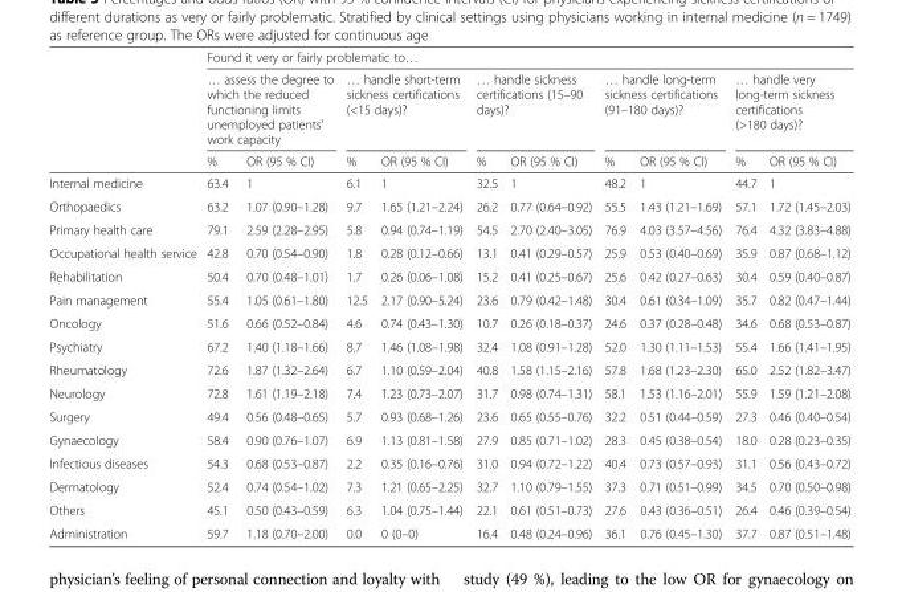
<table><thead><tr><td rowspan="3"></td><td colspan="10">Found it very or fairly problematic to…</td></tr><tr><td colspan="2">… assess the degree to which the reduced functioning limits unemployed patients’ work capacity</td><td colspan="2">… handle short-term sickness certifications (&lt;15 days)?</td><td colspan="2">… handle sickness certifications (15–90 days)?</td><td colspan="2">… handle long-term sickness certifications (91–180 days)?</td><td colspan="2">… handle very long-term sickness certifications (&gt;180 days)?</td></tr><tr><td>%</td><td>OR (95 % CI)</td><td>%</td><td>OR (95 % CI)</td><td>%</td><td>OR (95 % CI)</td><td>%</td><td>OR (95 % CI)</td><td>%</td><td>OR (95 % CI)</td></tr></thead><tbody><tr><td>Internal medicine</td><td>63.4</td><td>1</td><td>6.1</td><td>1</td><td>32.5</td><td>1</td><td>48.2</td><td>1</td><td>44.7</td><td>1</td></tr><tr><td>Orthopaedics</td><td>63.2</td><td>1.07 (0.90–1.28)</td><td>9.7</td><td>1.65 (1.21–2.24)</td><td>26.2</td><td>0.77 (0.64–0.92)</td><td>55.5</td><td>1.43 (1.21–1.69)</td><td>57.1</td><td>1.72 (1.45–2.03)</td></tr><tr><td>Primary health care</td><td>79.1</td><td>2.59 (2.28–2.95)</td><td>5.8</td><td>0.94 (0.74–1.19)</td><td>54.5</td><td>2.70 (2.40–3.05)</td><td>76.9</td><td>4.03 (3.57–4.56)</td><td>76.4</td><td>4.32 (3.83–4.88)</td></tr><tr><td>Occupational health service</td><td>42.8</td><td>0.70 (0.54–0.90)</td><td>1.8</td><td>0.28 (0.12–0.66)</td><td>13.1</td><td>0.41 (0.29–0.57)</td><td>25.9</td><td>0.53 (0.40–0.69)</td><td>35.9</td><td>0.87 (0.68–1.12)</td></tr><tr><td>Rehabilitation</td><td>50.4</td><td>0.70 (0.48–1.01)</td><td>1.7</td><td>0.26 (0.06–1.08)</td><td>15.2</td><td>0.41 (0.25–0.67)</td><td>25.6</td><td>0.42 (0.27–0.63)</td><td>30.4</td><td>0.59 (0.40–0.87)</td></tr><tr><td>Pain management</td><td>55.4</td><td>1.05 (0.61–1.80)</td><td>12.5</td><td>2.17 (0.90–5.24)</td><td>23.6</td><td>0.79 (0.42–1.48)</td><td>30.4</td><td>0.61 (0.34–1.09)</td><td>35.7</td><td>0.82 (0.47–1.44)</td></tr><tr><td>Oncology</td><td>51.6</td><td>0.66 (0.52–0.84)</td><td>4.6</td><td>0.74 (0.43–1.30)</td><td>10.7</td><td>0.26 (0.18–0.37)</td><td>24.6</td><td>0.37 (0.28–0.48)</td><td>34.6</td><td>0.68 (0.53–0.87)</td></tr><tr><td>Psychiatry</td><td>67.2</td><td>1.40 (1.18–1.66)</td><td>8.7</td><td>1.46 (1.08–1.98)</td><td>32.4</td><td>1.08 (0.91–1.28)</td><td>52.0</td><td>1.30 (1.11–1.53)</td><td>55.4</td><td>1.66 (1.41–1.95)</td></tr><tr><td>Rheumatology</td><td>72.6</td><td>1.87 (1.32–2.64)</td><td>6.7</td><td>1.10 (0.59–2.04)</td><td>40.8</td><td>1.58 (1.15–2.16)</td><td>57.8</td><td>1.68 (1.23–2.30)</td><td>65.0</td><td>2.52 (1.82–3.47)</td></tr><tr><td>Neurology</td><td>72.8</td><td>1.61 (1.19–2.18)</td><td>7.4</td><td>1.23 (0.73–2.07)</td><td>31.7</td><td>0.98 (0.74–1.31)</td><td>58.1</td><td>1.53 (1.16–2.01)</td><td>55.9</td><td>1.59 (1.21–2.08)</td></tr><tr><td>Surgery</td><td>49.4</td><td>0.56 (0.48–0.65)</td><td>5.7</td><td>0.93 (0.68–1.26)</td><td>23.6</td><td>0.65 (0.55–0.76)</td><td>32.2</td><td>0.51 (0.44–0.59)</td><td>27.3</td><td>0.46 (0.40–0.54)</td></tr><tr><td>Gynaecology</td><td>58.4</td><td>0.90 (0.76–1.07)</td><td>6.9</td><td>1.13 (0.81–1.58)</td><td>27.9</td><td>0.85 (0.71–1.02)</td><td>28.3</td><td>0.45 (0.38–0.54)</td><td>18.0</td><td>0.28 (0.23–0.35)</td></tr><tr><td>Infectious diseases</td><td>54.3</td><td>0.68 (0.53–0.87)</td><td>2.2</td><td>0.35 (0.16–0.76)</td><td>31.0</td><td>0.94 (0.72–1.22)</td><td>40.4</td><td>0.73 (0.57–0.93)</td><td>31.1</td><td>0.56 (0.43–0.72)</td></tr><tr><td>Dermatology</td><td>52.4</td><td>0.74 (0.54–1.02)</td><td>7.3</td><td>1.21 (0.65–2.25)</td><td>32.7</td><td>1.10 (0.79–1.55)</td><td>37.3</td><td>0.71 (0.51–0.99)</td><td>34.5</td><td>0.70 (0.50–0.98)</td></tr><tr><td>Others</td><td>45.1</td><td>0.50 (0.43–0.59)</td><td>6.3</td><td>1.04 (0.75–1.44)</td><td>22.1</td><td>0.61 (0.51–0.73)</td><td>27.6</td><td>0.43 (0.36–0.51)</td><td>26.4</td><td>0.46 (0.39–0.54)</td></tr><tr><td>Administration</td><td>59.7</td><td>1.18 (0.70–2.00)</td><td>0.0</td><td>0 (0–0)</td><td>16.4</td><td>0.48 (0.24–0.96)</td><td>36.1</td><td>0.76 (0.45–1.30)</td><td>37.7</td><td>0.87 (0.51–1.48)</td></tr></tbody></table>